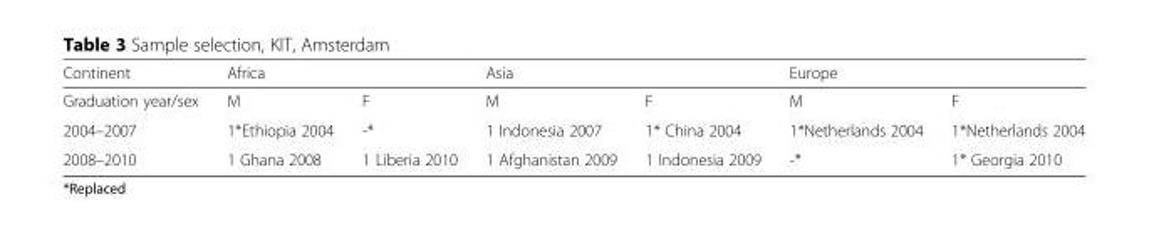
<table><thead><tr><td rowspan="2">Continent Graduation year/sex</td><td colspan="2">Africa</td><td colspan="2">Asia</td><td colspan="2">Europe</td></tr><tr><td>M</td><td>F</td><td>M</td><td>F</td><td>M</td><td>F</td></tr></thead><tbody><tr><td>2004–2007</td><td>1*Ethiopia 2004</td><td>-*</td><td>1 Indonesia 2007</td><td>1* China 2004</td><td>1*Netherlands 2004</td><td>1*Netherlands 2004</td></tr><tr><td>2008–2010</td><td>1 Ghana 2008</td><td>1 Liberia 2010</td><td>1 Afghanistan 2009</td><td>1 Indonesia 2009</td><td>-*</td><td>1* Georgia 2010</td></tr></tbody></table>